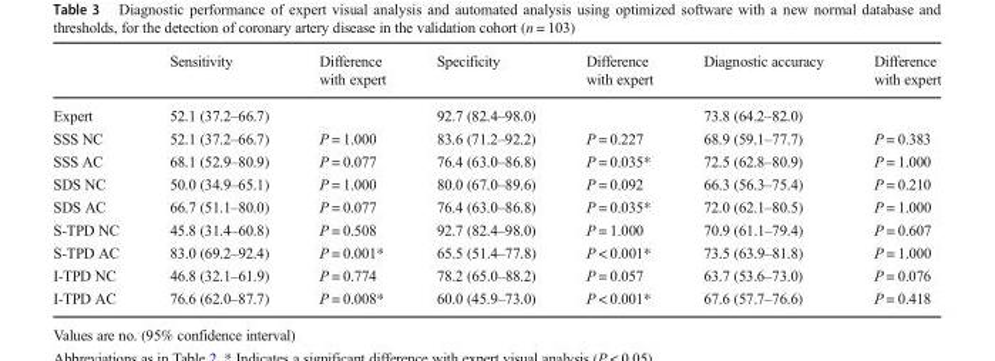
<table><thead><tr><td></td><td>Sensitivity</td><td>Difference with expert</td><td>Specificity</td><td>Difference with expert</td><td>Diagnostic accuracy</td><td>Difference with expert</td></tr></thead><tbody><tr><td>Expert</td><td>52.1 (37.2–66.7)</td><td></td><td>92.7 (82.4–98.0)</td><td></td><td>73.8 (64.2–82.0)</td><td></td></tr><tr><td>SSS NC</td><td>52.1 (37.2–66.7)</td><td>P = 1.000</td><td>83.6 (71.2–92.2)</td><td>P = 0.227</td><td>68.9 (59.1–77.7)</td><td>P = 0.383</td></tr><tr><td>SSS AC</td><td>68.1 (52.9–80.9)</td><td>P = 0.077</td><td>76.4 (63.0–86.8)</td><td>P = 0.035*</td><td>72.5 (62.8–80.9)</td><td>P = 1.000</td></tr><tr><td>SDS NC</td><td>50.0 (34.9–65.1)</td><td>P = 1.000</td><td>80.0 (67.0–89.6)</td><td>P = 0.092</td><td>66.3 (56.3–75.4)</td><td>P = 0.210</td></tr><tr><td>SDS AC</td><td>66.7 (51.1–80.0)</td><td>P = 0.077</td><td>76.4 (63.0–86.8)</td><td>P = 0.035*</td><td>72.0 (62.1–80.5)</td><td>P = 1.000</td></tr><tr><td>S-TPD NC</td><td>45.8 (31.4–60.8)</td><td>P = 0.508</td><td>92.7 (82.4–98.0)</td><td>P = 1.000</td><td>70.9 (61.1–79.4)</td><td>P = 0.607</td></tr><tr><td>S-TPD AC</td><td>83.0 (69.2–92.4)</td><td>P = 0.001*</td><td>65.5 (51.4–77.8)</td><td>P &lt; 0.001*</td><td>73.5 (63.9–81.8)</td><td>P = 1.000</td></tr><tr><td>I-TPD NC</td><td>46.8 (32.1–61.9)</td><td>P = 0.774</td><td>78.2 (65.0–88.2)</td><td>P = 0.057</td><td>63.7 (53.6–73.0)</td><td>P = 0.076</td></tr><tr><td>I-TPD AC</td><td>76.6 (62.0–87.7)</td><td>P = 0.008*</td><td>60.0 (45.9–73.0)</td><td>P &lt; 0.001*</td><td>67.6 (57.7–76.6)</td><td>P = 0.418</td></tr></tbody></table>